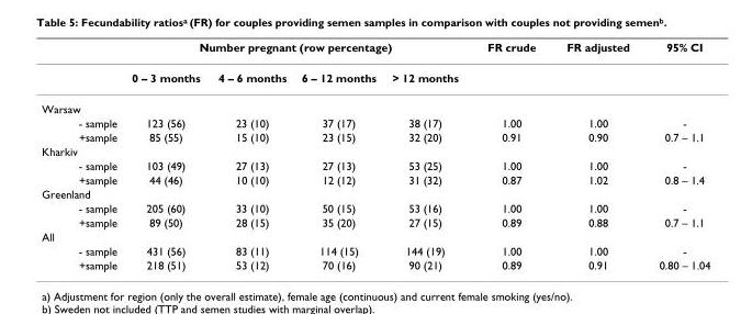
<table><thead><tr><td rowspan="2"></td><td colspan="4">Number pregnant (row percentage)</td><td rowspan="2">FR crude</td><td rowspan="2">FR adjusted</td><td rowspan="2">95% CI</td></tr><tr><td>0 – 3 months</td><td>4 – 6 months</td><td>6 – 12 months</td><td>&gt; 12 months</td></tr></thead><tbody><tr><td colspan="8">Warsaw</td></tr><tr><td>- sample</td><td>123 (56)</td><td>23 (10)</td><td>37 (17)</td><td>38 (17)</td><td>1.00</td><td>1.00</td><td>-</td></tr><tr><td>+sample</td><td>85 (55)</td><td>15 (10)</td><td>23 (15)</td><td>32 (20)</td><td>0.91</td><td>0.90</td><td>0.7 – 1.1</td></tr><tr><td colspan="8">Kharkiv</td></tr><tr><td>- sample</td><td>103 (49)</td><td>27 (13)</td><td>27 (13)</td><td>53 (25)</td><td>1.00</td><td>1.00</td><td>-</td></tr><tr><td>+sample</td><td>44 (46)</td><td>10 (10)</td><td>12 (12)</td><td>31 (32)</td><td>0.87</td><td>1.02</td><td>0.8 – 1.4</td></tr><tr><td colspan="8">Greenland</td></tr><tr><td>- sample</td><td>205 (60)</td><td>33 (10)</td><td>50 (15)</td><td>53 (16)</td><td>1.00</td><td>1.00</td><td>-</td></tr><tr><td>+sample</td><td>89 (50)</td><td>28 (15)</td><td>35 (20)</td><td>27 (15)</td><td>0.89</td><td>0.88</td><td>0.7 – 1.1</td></tr><tr><td colspan="8">All</td></tr><tr><td>- sample</td><td>431 (56)</td><td>83 (11)</td><td>114 (15)</td><td>144 (19)</td><td>1.00</td><td>1.00</td><td>-</td></tr><tr><td>+sample</td><td>218 (51)</td><td>53 (12)</td><td>70 (16)</td><td>90 (21)</td><td>0.89</td><td>0.91</td><td>0.80 – 1.04</td></tr></tbody></table>